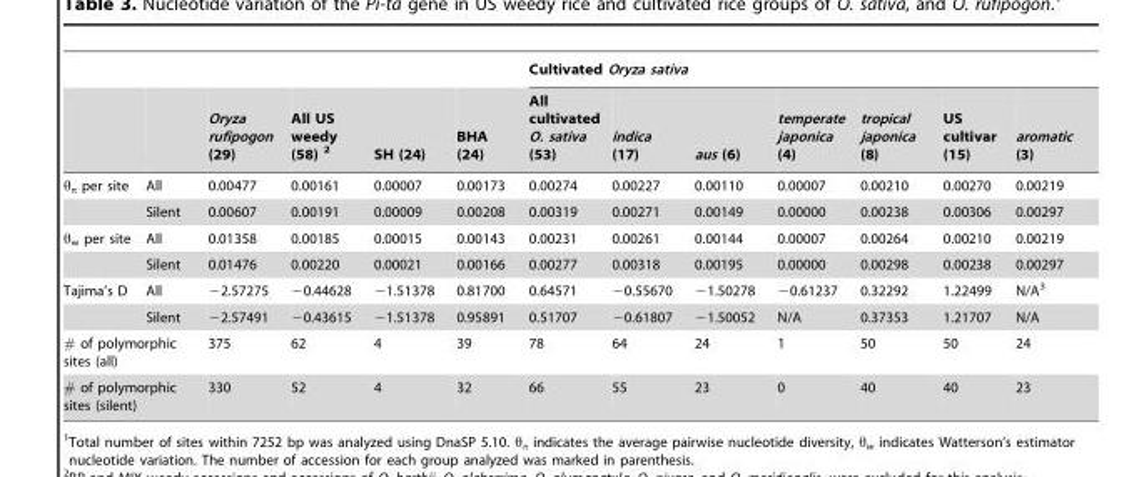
<table><thead><tr><td rowspan="2"></td><td rowspan="2"></td><td rowspan="2">Oryza rufipogon (29)</td><td rowspan="2">All US weedy (58) 2</td><td rowspan="2">SH (24)</td><td rowspan="2">BHA (24)</td><td colspan="7">Cultivated Oryza sativa</td></tr><tr><td>All cultivated O. sativa (53)</td><td>indica (17)</td><td>aus (6)</td><td>temperate japonica (4)</td><td>tropical japonica (8)</td><td>US cultivar (15)</td><td>aromatic (3)</td></tr></thead><tbody><tr><td rowspan="2">θ<sub>π</sub> per site</td><td>All</td><td>0.00477</td><td>0.00161</td><td>0.00007</td><td>0.00173</td><td>0.00274</td><td>0.00227</td><td>0.00110</td><td>0.00007</td><td>0.00210</td><td>0.00270</td><td>0.00219</td></tr><tr><td>Silent</td><td>0.00607</td><td>0.00191</td><td>0.00009</td><td>0.00208</td><td>0.00319</td><td>0.00271</td><td>0.00149</td><td>0.00000</td><td>0.00238</td><td>0.00306</td><td>0.00297</td></tr><tr><td rowspan="2">θ<sub>w</sub> per site</td><td>All</td><td>0.01358</td><td>0.00185</td><td>0.00015</td><td>0.00143</td><td>0.00231</td><td>0.00261</td><td>0.00144</td><td>0.00007</td><td>0.00264</td><td>0.00210</td><td>0.00219</td></tr><tr><td>Silent</td><td>0.01476</td><td>0.00220</td><td>0.00021</td><td>0.00166</td><td>0.00277</td><td>0.00318</td><td>0.00195</td><td>0.00000</td><td>0.00298</td><td>0.00238</td><td>0.00297</td></tr><tr><td rowspan="2">Tajima’s D</td><td>All</td><td>−2.57275</td><td>−0.44628</td><td>−1.51378</td><td>0.81700</td><td>0.64571</td><td>−0.55670</td><td>−1.50278</td><td>−0.61237</td><td>0.32292</td><td>1.22499</td><td>N/A<sup>3</sup></td></tr><tr><td>Silent</td><td>−2.57491</td><td>−0.43615</td><td>−1.51378</td><td>0.95891</td><td>0.51707</td><td>−0.61807</td><td>−1.50052</td><td>N/A</td><td>0.37353</td><td>1.21707</td><td>N/A</td></tr><tr><td colspan="2"># of polymorphic sites (all)</td><td>375</td><td>62</td><td>4</td><td>39</td><td>78</td><td>64</td><td>24</td><td>1</td><td>50</td><td>50</td><td>24</td></tr><tr><td colspan="2"># of polymorphic sites (silent)</td><td>330</td><td>52</td><td>4</td><td>32</td><td>66</td><td>55</td><td>23</td><td>0</td><td>40</td><td>40</td><td>23</td></tr></tbody></table>